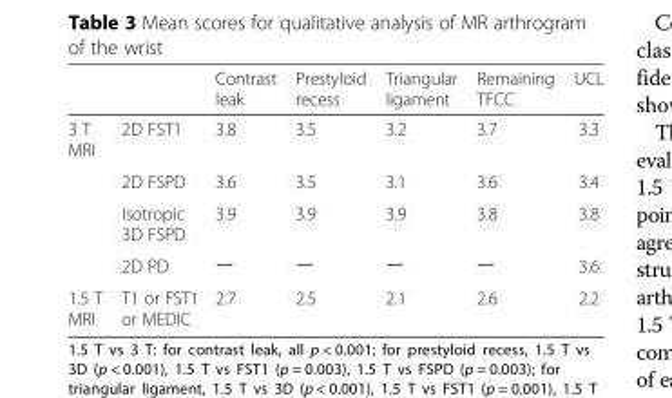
<table><thead><tr><td></td><td></td><td>Contrast leak</td><td>Prestyloid recess</td><td>Triangular ligament</td><td>Remaining TFCC</td><td>UCL</td></tr></thead><tbody><tr><td rowspan="4">3 T MRI</td><td>2D FST1</td><td>3.8</td><td>3.5</td><td>3.2</td><td>3.7</td><td>3.3</td></tr><tr><td>2D FSPD</td><td>3.6</td><td>3.5</td><td>3.1</td><td>3.6</td><td>3.4</td></tr><tr><td>Isotropic 3D FSPD</td><td>3.9</td><td>3.9</td><td>3.9</td><td>3.8</td><td>3.8</td></tr><tr><td>2D PD</td><td>ー</td><td>ー</td><td>ー</td><td>ー</td><td>3.6</td></tr><tr><td>1.5 T MRI</td><td>T1 or FST1 or MEDIC</td><td>2.7</td><td>2.5</td><td>2.1</td><td>2.6</td><td>2.2</td></tr></tbody></table>